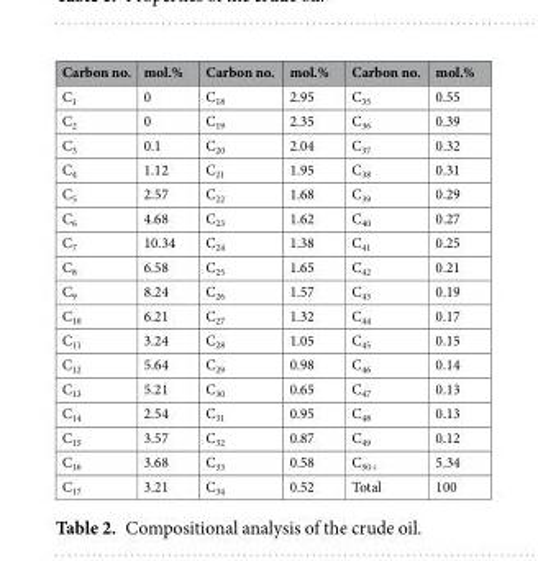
<table><thead><tr><td>Carbon no.</td><td>mol.%</td><td>Carbon no.</td><td>mol.%</td><td>Carbon no.</td><td>mol.%</td></tr></thead><tbody><tr><td>C<sub>1</sub></td><td>0</td><td>C<sub>18</sub></td><td>2.95</td><td>C<sub>35</sub></td><td>0.55</td></tr><tr><td>C<sub>2</sub></td><td>0</td><td>C<sub>19</sub></td><td>2.35</td><td>C<sub>36</sub></td><td>0.39</td></tr><tr><td>C<sub>3</sub></td><td>0.1</td><td>C<sub>20</sub></td><td>2.04</td><td>C<sub>37</sub></td><td>0.32</td></tr><tr><td>C<sub>4</sub></td><td>1.12</td><td>C<sub>21</sub></td><td>1.95</td><td>C<sub>38</sub></td><td>0.31</td></tr><tr><td>C<sub>5</sub></td><td>2.57</td><td>C<sub>22</sub></td><td>1.68</td><td>C<sub>39</sub></td><td>0.29</td></tr><tr><td>C<sub>6</sub></td><td>4.68</td><td>C<sub>23</sub></td><td>1.62</td><td>C<sub>40</sub></td><td>0.27</td></tr><tr><td>C<sub>7</sub></td><td>10.34</td><td>C<sub>24</sub></td><td>1.38</td><td>C<sub>41</sub></td><td>0.25</td></tr><tr><td>C<sub>8</sub></td><td>6.58</td><td>C<sub>25</sub></td><td>1.65</td><td>C<sub>42</sub></td><td>0.21</td></tr><tr><td>C<sub>9</sub></td><td>8.24</td><td>C<sub>26</sub></td><td>1.57</td><td>C<sub>43</sub></td><td>0.19</td></tr><tr><td>C<sub>10</sub></td><td>6.21</td><td>C<sub>27</sub></td><td>1.32</td><td>C<sub>44</sub></td><td>0.17</td></tr><tr><td>C<sub>11</sub></td><td>3.24</td><td>C<sub>28</sub></td><td>1.05</td><td>C<sub>45</sub></td><td>0.15</td></tr><tr><td>C<sub>12</sub></td><td>5.64</td><td>C<sub>29</sub></td><td>0.98</td><td>C<sub>46</sub></td><td>0.14</td></tr><tr><td>C<sub>13</sub></td><td>5.21</td><td>C<sub>30</sub></td><td>0.65</td><td>C<sub>47</sub></td><td>0.13</td></tr><tr><td>C<sub>14</sub></td><td>2.54</td><td>C<sub>31</sub></td><td>0.95</td><td>C<sub>48</sub></td><td>0.13</td></tr><tr><td>C<sub>15</sub></td><td>3.57</td><td>C<sub>32</sub></td><td>0.87</td><td>C<sub>49</sub></td><td>0.12</td></tr><tr><td>C<sub>16</sub></td><td>3.68</td><td>C<sub>33</sub></td><td>0.58</td><td>C<sub>50+</sub></td><td>5.34</td></tr><tr><td>C<sub>17</sub></td><td>3.21</td><td>C<sub>34</sub></td><td>0.52</td><td>Total</td><td>100</td></tr></tbody></table>